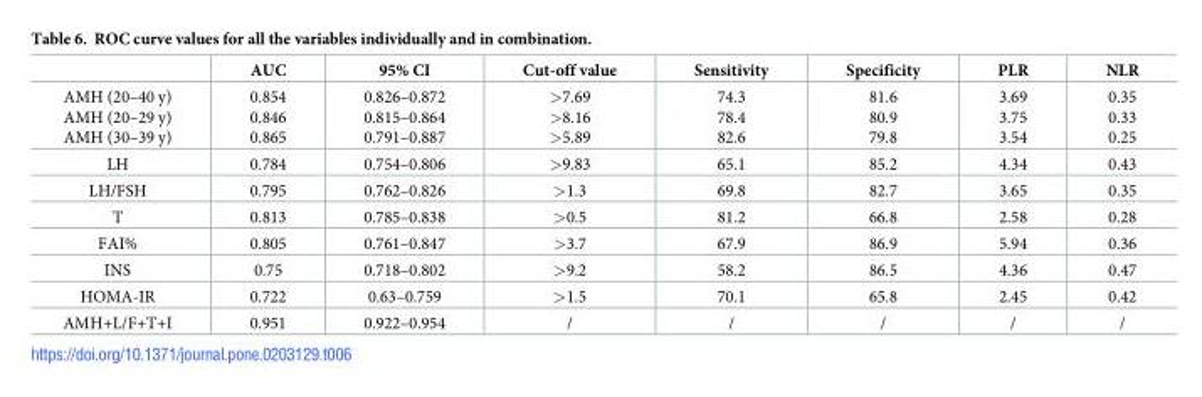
<table><thead><tr><td></td><td>AUC</td><td>95% CI</td><td>Cut-off value</td><td>Sensitivity</td><td>Specificity</td><td>PLR</td><td>NLR</td></tr></thead><tbody><tr><td>AMH (20–40 y) AMH (20–29 y) AMH (30–39 y)</td><td>0.854 0.846 0.865</td><td>0.826–0.872 0.815–0.864 0.791–0.887</td><td>&gt;7.69 &gt;8.16 &gt;5.89</td><td>74.3 78.4 82.6</td><td>81.6 80.9 79.8</td><td>3.69 3.75 3.54</td><td>0.35 0.33 0.25</td></tr><tr><td>LH</td><td>0.784</td><td>0.754–0.806</td><td>&gt;9.83</td><td>65.1</td><td>85.2</td><td>4.34</td><td>0.43</td></tr><tr><td>LH/FSH</td><td>0.795</td><td>0.762–0.826</td><td>&gt;1.3</td><td>69.8</td><td>82.7</td><td>3.65</td><td>0.35</td></tr><tr><td>T</td><td>0.813</td><td>0.785–0.838</td><td>&gt;0.5</td><td>81.2</td><td>66.8</td><td>2.58</td><td>0.28</td></tr><tr><td>FAI%</td><td>0.805</td><td>0.761–0.847</td><td>&gt;3.7</td><td>67.9</td><td>86.9</td><td>5.94</td><td>0.36</td></tr><tr><td>INS</td><td>0.75</td><td>0.718–0.802</td><td>&gt;9.2</td><td>58.2</td><td>86.5</td><td>4.36</td><td>0.47</td></tr><tr><td>HOMA-IR</td><td>0.722</td><td>0.63–0.759</td><td>&gt;1.5</td><td>70.1</td><td>65.8</td><td>2.45</td><td>0.42</td></tr><tr><td>AMH+L/F+T+I</td><td>0.951</td><td>0.922–0.954</td><td>/</td><td>/</td><td>/</td><td>/</td><td>/</td></tr></tbody></table>